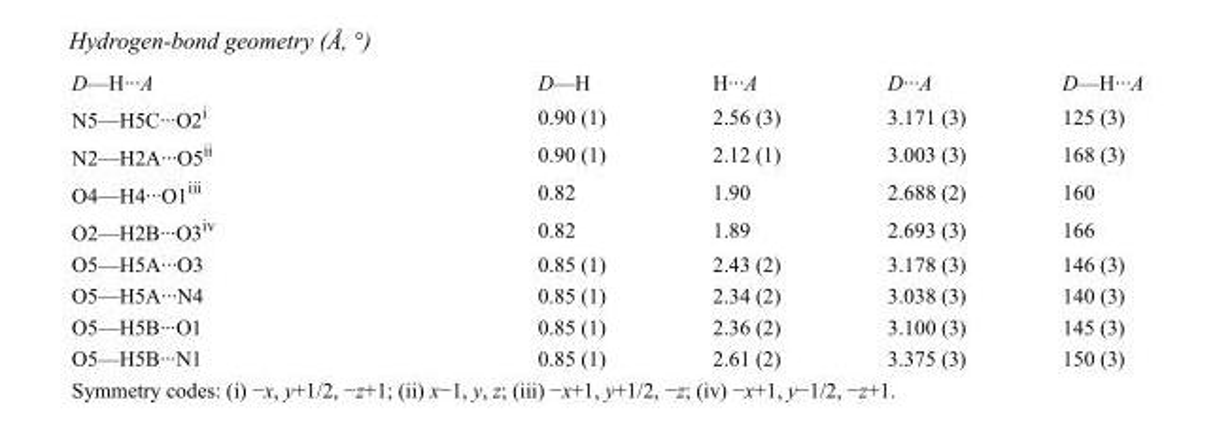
<table><tbody><tr><td>D—H···A</td><td>D—H</td><td>H···A</td><td>D···A</td><td>D—H···A</td></tr><tr><td>N5—H5C···O2<sup>i</sup></td><td>0.90 (1)</td><td>2.56 (3)</td><td>3.171 (3)</td><td>125 (3)</td></tr><tr><td>N2—H2A···O5<sup>ii</sup></td><td>0.90 (1)</td><td>2.12 (1)</td><td>3.003 (3)</td><td>168 (3)</td></tr><tr><td>O4—H4···O1<sup>iii</sup></td><td>0.82</td><td>1.90</td><td>2.688 (2)</td><td>160</td></tr><tr><td>O2—H2B···O3<sup>iv</sup></td><td>0.82</td><td>1.89</td><td>2.693 (3)</td><td>166</td></tr><tr><td>O5—H5A···O3</td><td>0.85 (1)</td><td>2.43 (2)</td><td>3.178 (3)</td><td>146 (3)</td></tr><tr><td>O5—H5A···N4</td><td>0.85 (1)</td><td>2.34 (2)</td><td>3.038 (3)</td><td>140 (3)</td></tr><tr><td>O5—H5B···O1</td><td>0.85 (1)</td><td>2.36 (2)</td><td>3.100 (3)</td><td>145 (3)</td></tr><tr><td>O5—H5B···N1</td><td>0.85 (1)</td><td>2.61 (2)</td><td>3.375 (3)</td><td>150 (3)</td></tr></tbody></table>